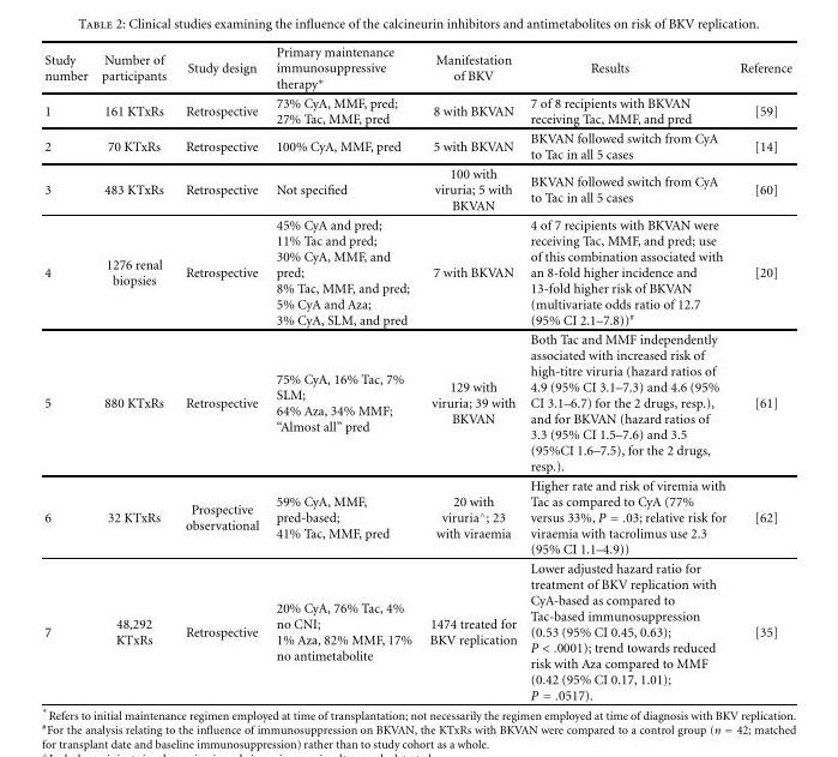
<table><thead><tr><td>Study number</td><td>Number of participants</td><td>Study design</td><td>Primary maintenance immunosuppressive therapy∗</td><td>Manifestation of BKV</td><td>Results</td><td>Reference</td></tr></thead><tbody><tr><td>1</td><td>161 KTxRs</td><td>Retrospective</td><td>73% CyA, MMF, pred; 27% Tac, MMF, pred</td><td>8 with BKVAN</td><td>7 of 8 recipients with BKVAN receiving Tac, MMF, and pred</td><td>[59]</td></tr><tr><td>2</td><td>70 KTxRs</td><td>Retrospective</td><td>100% CyA, MMF, pred</td><td>5 with BKVAN</td><td>BKVAN followed switch from CyA to Tac in all 5 cases</td><td>[14]</td></tr><tr><td>3</td><td>483 KTxRs</td><td>Retrospective</td><td>Not specified</td><td>100 with viruria; 5 with BKVAN</td><td>BKVAN followed switch from CyA to Tac in all 5 cases</td><td>[60]</td></tr><tr><td>4</td><td>1276 renal biopsies</td><td>Retrospective</td><td>45% CyA and pred; 11% Tac and pred; 30% CyA, MMF, and pred; 8% Tac, MMF, and pred; 5% CyA and Aza; 3% CyA, SLM, and pred</td><td>7 with BKVAN</td><td>4 of 7 recipients with BKVAN were receiving Tac, MMF, and pred; use of this combination associated with an 8-fold higher incidence and 13-fold higher risk of BKVAN (multivariate odds ratio of 12.7 (95% CI 2.1–7.8))<sup>#</sup></td><td>[20]</td></tr><tr><td>5</td><td>880 KTxRs</td><td>Retrospective</td><td>75% CyA, 16% Tac, 7% SLM; 64% Aza, 34% MMF; “Almost all” pred</td><td>129 with viruria; 39 with BKVAN</td><td>Both Tac and MMF independently associated with increased risk of high-titre viruria (hazard ratios of 4.9 (95% CI 3.1–7.3) and 4.6 (95% CI 3.1–6.7) for the 2 drugs, resp.), and for BKVAN (hazard ratios of 3.3 (95% CI 1.5–7.6) and 3.5 (95%CI 1.6–7.5), for the 2 drugs, resp.).</td><td>[61]</td></tr><tr><td>6</td><td>32 KTxRs</td><td>Prospective observational</td><td>59% CyA, MMF, pred-based; 41% Tac, MMF, pred</td><td>20 with viruria<sup>∧</sup>; 23 with viraemia</td><td>Higher rate and risk of viremia with Tac as compared to CyA (77% versus 33%, P = .03; relative risk for viraemia with tacrolimus use 2.3 (95% CI 1.1–4.9))</td><td>[62]</td></tr><tr><td>7</td><td>48,292 KTxRs</td><td>Retrospective</td><td>20% CyA, 76% Tac, 4% no CNI; 1% Aza, 82% MMF, 17% no antimetabolite</td><td>1474 treated for BKV replication</td><td>Lower adjusted hazard ratio for treatment of BKV replication with CyA-based as compared to Tac-based immunosuppression (0.53 (95% CI 0.45, 0.63); P &lt; .0001); trend towards reduced risk with Aza compared to MMF (0.42 (95% CI 0.17, 1.01); P = .0517).</td><td>[35]</td></tr></tbody></table>